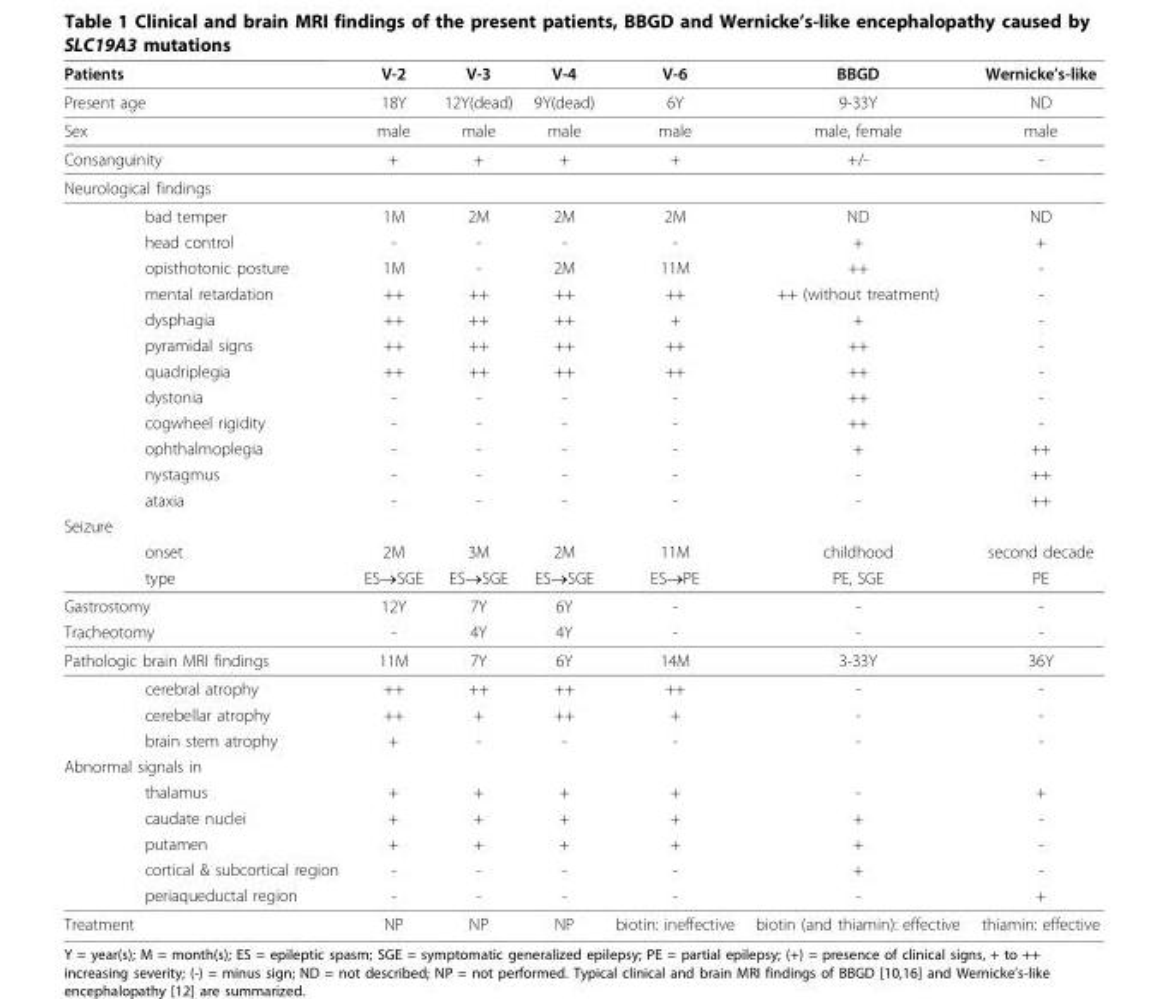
<table><thead><tr><td>Patients</td><td></td><td>V-2</td><td>V-3</td><td>V-4</td><td>V-6</td><td>BBGD</td><td>Wernicke’s-like</td></tr></thead><tbody><tr><td colspan="2">Present age</td><td>18Y</td><td>12Y(dead)</td><td>9Y(dead)</td><td>6Y</td><td>9-33Y</td><td>ND</td></tr><tr><td colspan="2">Sex</td><td>male</td><td>male</td><td>male</td><td>male</td><td>male, female</td><td>male</td></tr><tr><td colspan="2">Consanguinity</td><td>+</td><td>+</td><td>+</td><td>+</td><td>+/-</td><td>-</td></tr><tr><td colspan="8">Neurological findings</td></tr><tr><td></td><td>bad temper</td><td>1M</td><td>2M</td><td>2M</td><td>2M</td><td>ND</td><td>ND</td></tr><tr><td></td><td>head control</td><td>-</td><td>-</td><td>-</td><td>-</td><td>+</td><td>+</td></tr><tr><td></td><td>opisthotonic posture</td><td>1M</td><td>-</td><td>2M</td><td>11M</td><td>++</td><td>-</td></tr><tr><td></td><td>mental retardation</td><td>++</td><td>++</td><td>++</td><td>++</td><td>++ (without treatment)</td><td>-</td></tr><tr><td></td><td>dysphagia</td><td>++</td><td>++</td><td>++</td><td>+</td><td>+</td><td>-</td></tr><tr><td></td><td>pyramidal signs</td><td>++</td><td>++</td><td>++</td><td>++</td><td>++</td><td>-</td></tr><tr><td></td><td>quadriplegia</td><td>++</td><td>++</td><td>++</td><td>++</td><td>++</td><td>-</td></tr><tr><td></td><td>dystonia</td><td>-</td><td>-</td><td>-</td><td>-</td><td>++</td><td>-</td></tr><tr><td></td><td>cogwheel rigidity</td><td>-</td><td>-</td><td>-</td><td>-</td><td>++</td><td>-</td></tr><tr><td></td><td>ophthalmoplegia</td><td>-</td><td>-</td><td>-</td><td>-</td><td>+</td><td>++</td></tr><tr><td></td><td>nystagmus</td><td>-</td><td>-</td><td>-</td><td>-</td><td>-</td><td>++</td></tr><tr><td></td><td>ataxia</td><td>-</td><td>-</td><td>-</td><td>-</td><td>-</td><td>++</td></tr><tr><td colspan="8">Seizure</td></tr><tr><td></td><td>onset</td><td>2M</td><td>3M</td><td>2M</td><td>11M</td><td>childhood</td><td>second decade</td></tr><tr><td></td><td>type</td><td>ES→SGE</td><td>ES→SGE</td><td>ES→SGE</td><td>ES→PE</td><td>PE, SGE</td><td>PE</td></tr><tr><td colspan="2">Gastrostomy</td><td>12Y</td><td>7Y</td><td>6Y</td><td>-</td><td>-</td><td>-</td></tr><tr><td colspan="2">Tracheotomy</td><td>-</td><td>4Y</td><td>4Y</td><td>-</td><td>-</td><td>-</td></tr><tr><td colspan="2">Pathologic brain MRI findings</td><td>11M</td><td>7Y</td><td>6Y</td><td>14M</td><td>3-33Y</td><td>36Y</td></tr><tr><td></td><td>cerebral atrophy</td><td>++</td><td>++</td><td>++</td><td>++</td><td>-</td><td>-</td></tr><tr><td></td><td>cerebellar atrophy</td><td>++</td><td>+</td><td>++</td><td>+</td><td>-</td><td>-</td></tr><tr><td></td><td>brain stem atrophy</td><td>+</td><td>-</td><td>-</td><td>-</td><td>-</td><td>-</td></tr><tr><td colspan="8">Abnormal signals in</td></tr><tr><td></td><td>thalamus</td><td>+</td><td>+</td><td>+</td><td>+</td><td>-</td><td>+</td></tr><tr><td></td><td>caudate nuclei</td><td>+</td><td>+</td><td>+</td><td>+</td><td>+</td><td>-</td></tr><tr><td></td><td>putamen</td><td>+</td><td>+</td><td>+</td><td>+</td><td>+</td><td>-</td></tr><tr><td></td><td>cortical &amp; subcortical region</td><td>-</td><td>-</td><td>-</td><td>-</td><td>+</td><td>-</td></tr><tr><td></td><td>periaqueductal region</td><td>-</td><td>-</td><td>-</td><td>-</td><td>-</td><td>+</td></tr><tr><td colspan="2">Treatment</td><td>NP</td><td>NP</td><td>NP</td><td>biotin: ineffective</td><td>biotin (and thiamin): effective</td><td>thiamin: effective</td></tr></tbody></table>